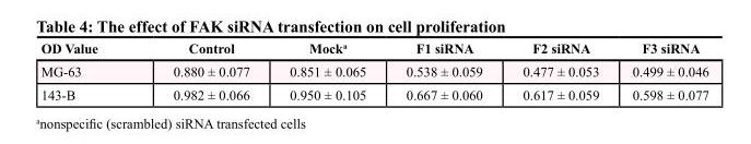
<table><thead><tr><td>OD Value</td><td>Control</td><td>Mock<sup>a</sup></td><td>F1 siRNA</td><td>F2 siRNA</td><td>F3 siRNA</td></tr></thead><tbody><tr><td>MG-63</td><td>0.880 ± 0.077</td><td>0.851 ± 0.065</td><td>0.538 ± 0.059</td><td>0.477 ± 0.053</td><td>0.499 ± 0.046</td></tr><tr><td>143-B</td><td>0.982 ± 0.066</td><td>0.950 ± 0.105</td><td>0.667 ± 0.060</td><td>0.617 ± 0.059</td><td>0.598 ± 0.077</td></tr></tbody></table>